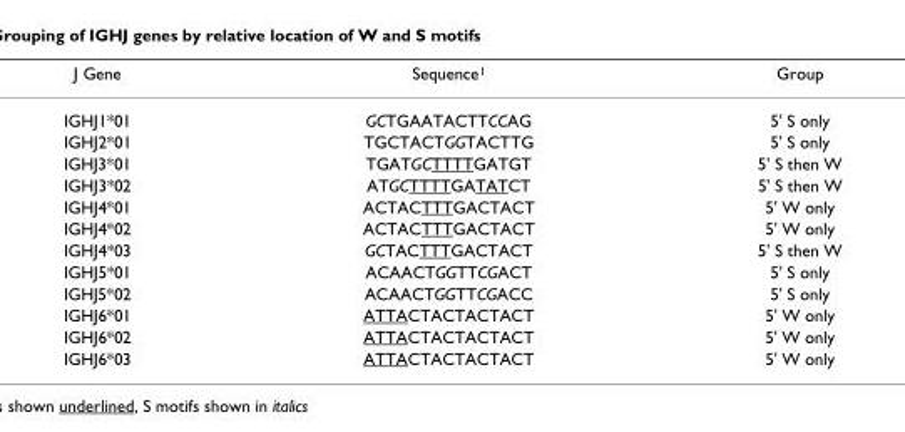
<table><thead><tr><td>J Gene</td><td>Sequence<sup>1</sup></td><td>Group</td></tr></thead><tbody><tr><td>IGHJ1*01</td><td>GCTGAATACTTCCAG</td><td>5&#x27; S only</td></tr><tr><td>IGHJ2*01</td><td>TGCTACTGGTACTTG</td><td>5&#x27; S only</td></tr><tr><td>IGHJ3*01</td><td>TGATGCTTTTGATGT</td><td>5&#x27; S then W</td></tr><tr><td>IGHJ3*02</td><td>ATGCTTTTGATATCT</td><td>5&#x27; S then W</td></tr><tr><td>IGHJ4*01</td><td>ACTACTTTGACTACT</td><td>5&#x27; W only</td></tr><tr><td>IGHJ4*02</td><td>ACTACTTTGACTACT</td><td>5&#x27; W only</td></tr><tr><td>IGHJ4*03</td><td>GCTACTTTGACTACT</td><td>5&#x27; S then W</td></tr><tr><td>IGHJ5*01</td><td>ACAACTGGTTCGACT</td><td>5&#x27; S only</td></tr><tr><td>IGHJ5*02</td><td>ACAACTGGTTCGACC</td><td>5&#x27; S only</td></tr><tr><td>IGHJ6*01</td><td>ATTACTACTACTACT</td><td>5&#x27; W only</td></tr><tr><td>IGHJ6*02</td><td>ATTACTACTACTACT</td><td>5&#x27; W only</td></tr><tr><td>IGHJ6*03</td><td>ATTACTACTACTACT</td><td>5&#x27; W only</td></tr></tbody></table>